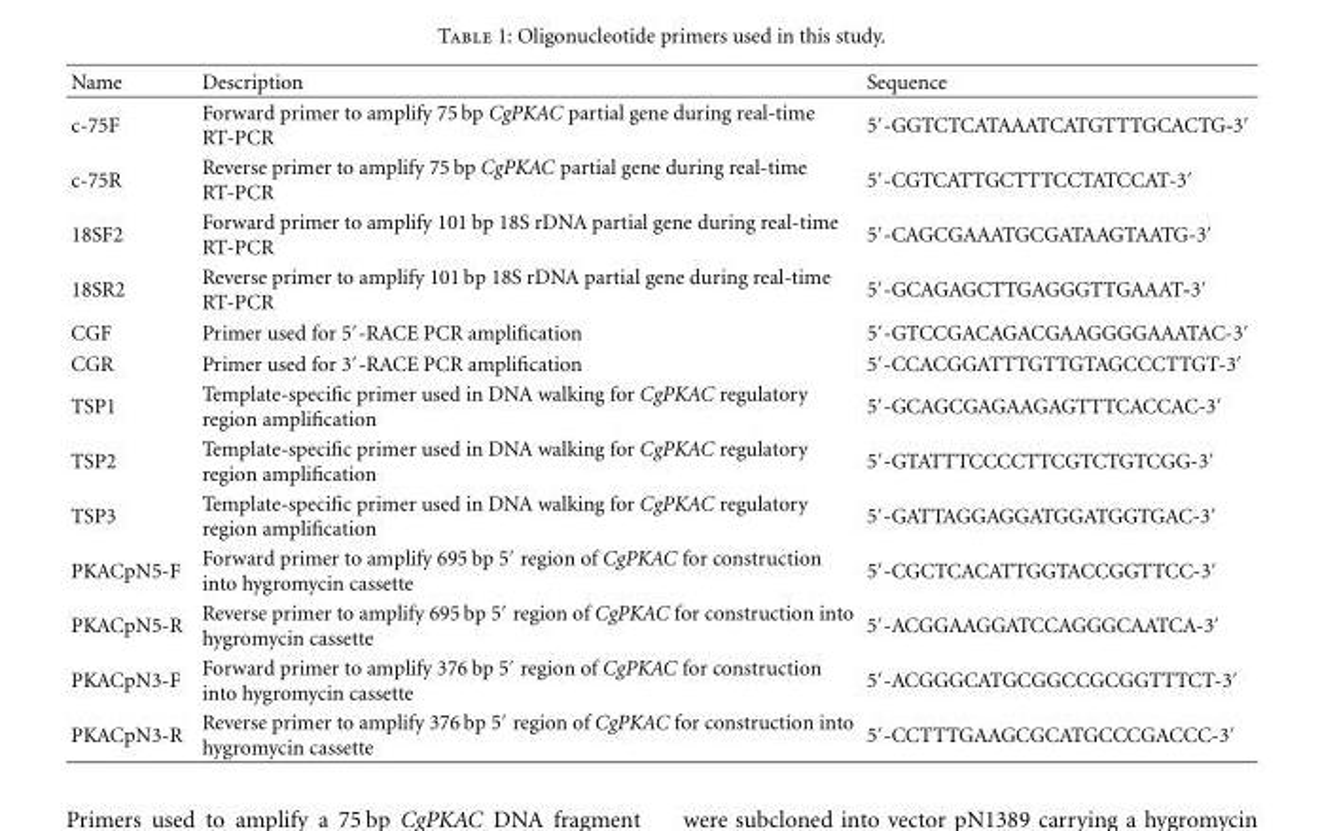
<table><thead><tr><td>Name</td><td>Description</td><td>Sequence</td></tr></thead><tbody><tr><td>c-75F</td><td>Forward primer to amplify 75 bp CgPKAC partial gene during real-time RT-PCR</td><td>5′-GGTCTCATAAATCATGTTTGCACTG-3′</td></tr><tr><td>c-75R</td><td>Reverse primer to amplify 75 bp CgPKAC partial gene during real-time RT-PCR</td><td>5′-CGTCATTGCTTTCCTATCCAT-3′</td></tr><tr><td>18SF2</td><td>Forward primer to amplify 101 bp 18S rDNA partial gene during real-time RT-PCR</td><td>5′-CAGCGAAATGCGATAAGTAATG-3′</td></tr><tr><td>18SR2</td><td>Reverse primer to amplify 101 bp 18S rDNA partial gene during real-time RT-PCR</td><td>5′-GCAGAGCTTGAGGGTTGAAAT-3′</td></tr><tr><td>CGF</td><td>Primer used for 5′-RACE PCR amplification</td><td>5′-GTCCGACAGACGAAGGGGAAATAC-3′</td></tr><tr><td>CGR</td><td>Primer used for 3′-RACE PCR amplification</td><td>5′-CCACGGATTTGTTGTAGCCCTTGT-3′</td></tr><tr><td>TSP1</td><td>Template-specific primer used in DNA walking for CgPKAC regulatory region amplification</td><td>5′-GCAGCGAGAAGAGTTTCACCAC-3′</td></tr><tr><td>TSP2</td><td>Template-specific primer used in DNA walking for CgPKAC regulatory region amplification</td><td>5′-GTATTTCCCCTTCGTCTGTCGG-3′</td></tr><tr><td>TSP3</td><td>Template-specific primer used in DNA walking for CgPKAC regulatory region amplification</td><td>5′-GATTAGGAGGATGGATGGTGAC-3′</td></tr><tr><td>PKACpN5-F</td><td>Forward primer to amplify 695 bp 5′ region of CgPKAC for construction into hygromycin cassette</td><td>5′-CGCTCACATTGGTACCGGTTCC-3′</td></tr><tr><td>PKACpN5-R</td><td>Reverse primer to amplify 695 bp 5′ region of CgPKAC for construction into hygromycin cassette</td><td>5′-ACGGAAGGATCCAGGGCAATCA-3′</td></tr><tr><td>PKACpN3-F</td><td>Forward primer to amplify 376 bp 5′ region of CgPKAC for construction into hygromycin cassette</td><td>5′-ACGGGCATGCGGCCGCGGTTTCT-3′</td></tr><tr><td>PKACpN3-R</td><td>Reverse primer to amplify 376 bp 5′ region of CgPKAC for construction into hygromycin cassette</td><td>5′-CCTTTGAAGCGCATGCCCGACCC-3′</td></tr></tbody></table>